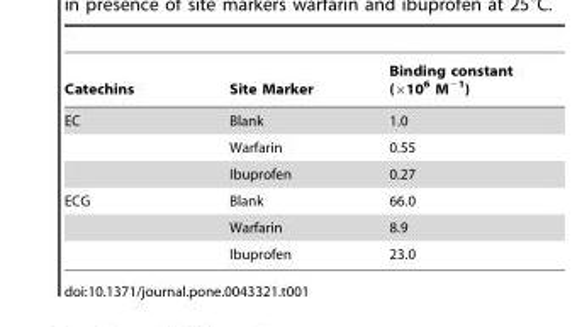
<table><thead><tr><td>Catechins</td><td>Site Marker</td><td>Binding constant (×10<sup>6</sup> M<sup>−1</sup>)</td></tr></thead><tbody><tr><td rowspan="3">EC</td><td>Blank</td><td>1.0</td></tr><tr><td>Warfarin</td><td>0.55</td></tr><tr><td>Ibuprofen</td><td>0.27</td></tr><tr><td rowspan="3">ECG</td><td>Blank</td><td>66.0</td></tr><tr><td>Warfarin</td><td>8.9</td></tr><tr><td>Ibuprofen</td><td>23.0</td></tr></tbody></table>